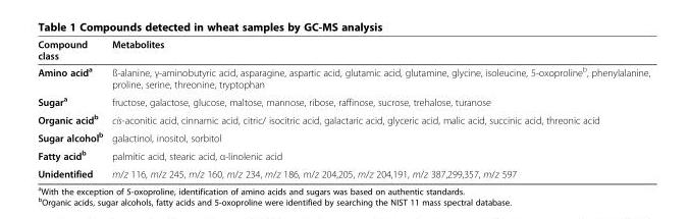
<table><thead><tr><td>Compound class</td><td>Metabolites</td></tr></thead><tbody><tr><td>Amino acid<sup>a</sup></td><td>ß-alanine, γ-aminobutyric acid, asparagine, aspartic acid, glutamic acid, glutamine, glycine, isoleucine, 5-oxoproline<sup>b</sup>, phenylalanine, proline, serine, threonine, tryptophan</td></tr><tr><td>Sugar<sup>a</sup></td><td>fructose, galactose, glucose, maltose, mannose, ribose, raffinose, sucrose, trehalose, turanose</td></tr><tr><td>Organic acid<sup>b</sup></td><td>cis-aconitic acid, cinnamic acid, citric/ isocitric acid, galactaric acid, glyceric acid, malic acid, succinic acid, threonic acid</td></tr><tr><td>Sugar alcohol<sup>b</sup></td><td>galactinol, inositol, sorbitol</td></tr><tr><td>Fatty acid<sup>b</sup></td><td>palmitic acid, stearic acid, α-linolenic acid</td></tr><tr><td>Unidentified</td><td>m/z 116, m/z 245, m/z 160, m/z 234, m/z 186, m/z 204,205, m/z 204,191, m/z 387,299,357, m/z 597</td></tr></tbody></table>